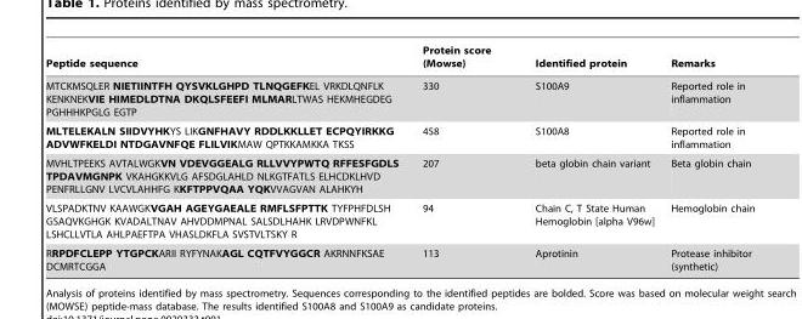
<table><thead><tr><td>Peptide sequence</td><td>Protein score (Mowse)</td><td>Identified protein</td><td>Remarks</td></tr></thead><tbody><tr><td>MTCKMSQLER NIETIINTFH QYSVKLGHPD TLNQGEFKEL VRKDLQNFLK KENKNEKVIE HIMEDLDTNA DKQLSFEEFI MLMARLTWAS HEKMHEGDEG PGHHHKPGLG EGTP</td><td>330</td><td>S100A9</td><td>Reported role in inflammation</td></tr><tr><td>MLTELEKALN SIIDVYHKYS LIKGNFHAVY RDDLKKLLET ECPQYIRKKG ADVWFKELDI NTDGAVNFQE FLILVIKMAW QPTKKAMKKA TKSS</td><td>458</td><td>S100A8</td><td>Reported role in inflammation</td></tr><tr><td>MVHLTPEEKS AVTALWGKVN VDEVGGEALG RLLVVYPWTQ RFFESFGDLS TPDAVMGNPK VKAHGKKVLG AFSDGLAHLD NLKGTFATLS ELHCDKLHVD PENFRLLGNV LVCVLAHHFG KKFTPPVQAA YQKVVAGVAN ALAHKYH</td><td>207</td><td>beta globin chain variant</td><td>Beta globin chain</td></tr><tr><td>VLSPADKTNV KAAWGKVGAH AGEYGAEALE RMFLSFPTTK TYFPHFDLSH GSAQVKGHGK KVADALTNAV AHVDDMPNAL SALSDLHAHK LRVDPWNFKL LSHCLLVTLA AHLPAEFTPA VHASLDKFLA SVSTVLTSKY R</td><td>94</td><td>Chain C, T State Human Hemoglobin [alpha V96w]</td><td>Hemoglobin chain</td></tr><tr><td>RRPDFCLEPP YTGPCKARII RYFYNAKAGL CQTFVYGGCR AKRNNFKSAE DCMRTCGGA</td><td>113</td><td>Aprotinin</td><td>Protease inhibitor (synthetic)</td></tr></tbody></table>